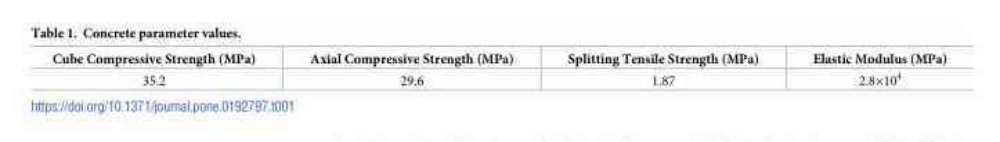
<table><thead><tr><td>Cube Compressive Strength (MPa)</td><td>Axial Compressive Strength (MPa)</td><td>Splitting Tensile Strength (MPa)</td><td>Elastic Modulus (MPa)</td></tr></thead><tbody><tr><td>35.2</td><td>29.6</td><td>1.87</td><td>2.8×10<sup>4</sup></td></tr></tbody></table>